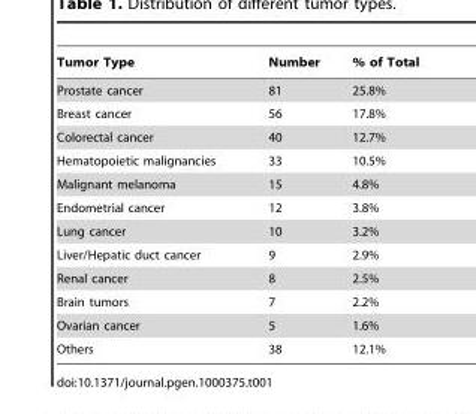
<table><thead><tr><td>Tumor Type</td><td>Number</td><td>% of Total</td></tr></thead><tbody><tr><td>Prostate cancer</td><td>81</td><td>25.8%</td></tr><tr><td>Breast cancer</td><td>56</td><td>17.8%</td></tr><tr><td>Colorectal cancer</td><td>40</td><td>12.7%</td></tr><tr><td>Hematopoietic malignancies</td><td>33</td><td>10.5%</td></tr><tr><td>Malignant melanoma</td><td>15</td><td>4.8%</td></tr><tr><td>Endometrial cancer</td><td>12</td><td>3.8%</td></tr><tr><td>Lung cancer</td><td>10</td><td>3.2%</td></tr><tr><td>Liver/Hepatic duct cancer</td><td>9</td><td>2.9%</td></tr><tr><td>Renal cancer</td><td>8</td><td>2.5%</td></tr><tr><td>Brain tumors</td><td>7</td><td>2.2%</td></tr><tr><td>Ovarian cancer</td><td>5</td><td>1.6%</td></tr><tr><td>Others</td><td>38</td><td>12.1%</td></tr></tbody></table>